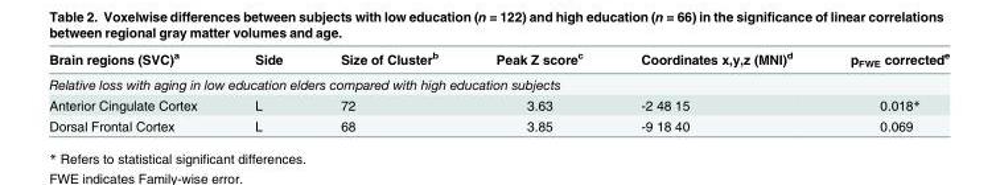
<table><thead><tr><td>Brain regions (SVC)<sup>a</sup></td><td>Side</td><td>Size of Cluster<sup>b</sup></td><td>Peak Z score<sup>c</sup></td><td>Coordinates x,y,z (MNI)<sup>d</sup></td><td>p<sub>FWE</sub> corrected<sup>e</sup></td></tr></thead><tbody><tr><td colspan="6">Relative loss with aging in low education elders compared with high education subjects</td></tr><tr><td>Anterior Cingulate Cortex</td><td>L</td><td>72</td><td>3.63</td><td>-2 48 15</td><td>0.018*</td></tr><tr><td>Dorsal Frontal Cortex</td><td>L</td><td>68</td><td>3.85</td><td>-9 18 40</td><td>0.069</td></tr></tbody></table>